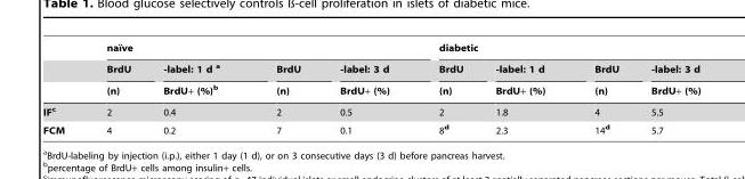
<table><thead><tr><td rowspan="3"></td><td colspan="4">naı¨ve</td><td colspan="4">diabetic</td></tr><tr><td rowspan="2">BrdU (n)</td><td rowspan="2">-label: 1 d a BrdU+ (%)<sup>b</sup></td><td rowspan="2">BrdU (n)</td><td rowspan="2">-label: 3 d BrdU+ (%)</td><td rowspan="2">BrdU (n)</td><td rowspan="2">-label: 1 d BrdU+ (%)</td><td rowspan="2">BrdU (n)</td><td rowspan="2">-label: 3 d BrdU+ (%)</td></tr><tr></tr></thead><tbody><tr><td>IFc</td><td>2</td><td>0.4</td><td>2</td><td>0.5</td><td>2</td><td>1.8</td><td>4</td><td>5.5</td></tr><tr><td>FCM</td><td>4</td><td>0.2</td><td>7</td><td>0.1</td><td>8<sup>d</sup></td><td>2.3</td><td>14<sup>d</sup></td><td>5.7</td></tr></tbody></table>